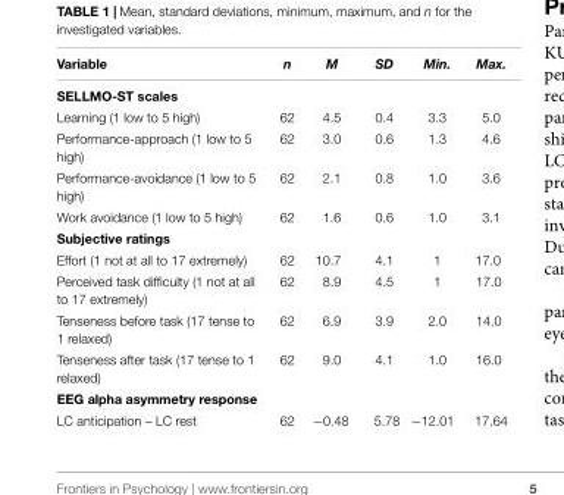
<table><thead><tr><td>Variable</td><td>n</td><td>M</td><td>SD</td><td>Min.</td><td>Max.</td></tr></thead><tbody><tr><td colspan="6">SELLMO-ST scales</td></tr><tr><td>Learning (1 low to 5 high)</td><td>62</td><td>4.5</td><td>0.4</td><td>3.3</td><td>5.0</td></tr><tr><td>Performance-approach (1 low to 5 high)</td><td>62</td><td>3.0</td><td>0.6</td><td>1.3</td><td>4.6</td></tr><tr><td>Performance-avoidance (1 low to 5 high)</td><td>62</td><td>2.1</td><td>0.8</td><td>1.0</td><td>3.6</td></tr><tr><td>Work avoidance (1 low to 5 high)</td><td>62</td><td>1.6</td><td>0.6</td><td>1.0</td><td>3.1</td></tr><tr><td colspan="6">Subjective ratings</td></tr><tr><td>Effort (1 not at all to 17 extremely)</td><td>62</td><td>10.7</td><td>4.1</td><td>1</td><td>17.0</td></tr><tr><td>Perceived task difficulty (1 not at all to 17 extremely)</td><td>62</td><td>8.9</td><td>4.5</td><td>1</td><td>17.0</td></tr><tr><td>Tenseness before task (17 tense to 1 relaxed)</td><td>62</td><td>6.9</td><td>3.9</td><td>2.0</td><td>14.0</td></tr><tr><td>Tenseness after task (17 tense to 1 relaxed)</td><td>62</td><td>9.0</td><td>4.1</td><td>1.0</td><td>16.0</td></tr><tr><td colspan="6">EEG alpha asymmetry response</td></tr><tr><td>LC anticipation – LC rest</td><td>62</td><td>−0.48</td><td>5.78</td><td>−12.01</td><td>17.64</td></tr></tbody></table>